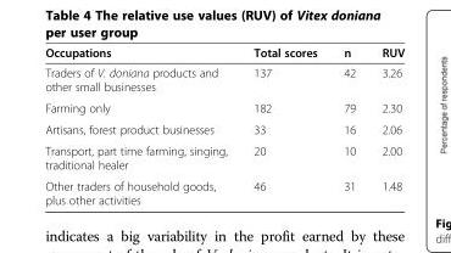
<table><thead><tr><td>Occupations</td><td>Total scores</td><td>n</td><td>RUV</td></tr></thead><tbody><tr><td>Traders of V. doniana products and other small businesses</td><td>137</td><td>42</td><td>3.26</td></tr><tr><td>Farming only</td><td>182</td><td>79</td><td>2.30</td></tr><tr><td>Artisans, forest product businesses</td><td>33</td><td>16</td><td>2.06</td></tr><tr><td>Transport, part time farming, singing, traditional healer</td><td>20</td><td>10</td><td>2.00</td></tr><tr><td>Other traders of household goods, plus other activities</td><td>46</td><td>31</td><td>1.48</td></tr></tbody></table>